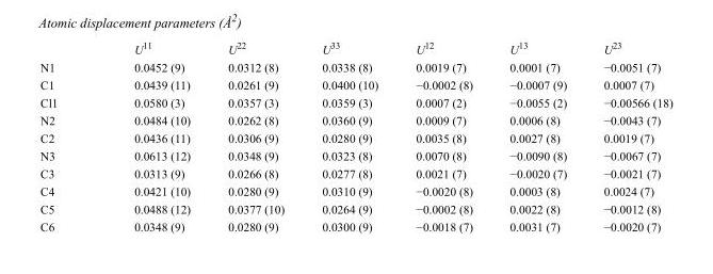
<table><thead><tr><td></td><td>U<sup>11</sup></td><td>U<sup>22</sup></td><td>U<sup>33</sup></td><td>U<sup>12</sup></td><td>U<sup>13</sup></td><td>U<sup>23</sup></td></tr></thead><tbody><tr><td>N1</td><td>0.0452 (9)</td><td>0.0312 (8)</td><td>0.0338 (8)</td><td>0.0019 (7)</td><td>0.0001 (7)</td><td>−0.0051 (7)</td></tr><tr><td>C1</td><td>0.0439 (11)</td><td>0.0261 (9)</td><td>0.0400 (10)</td><td>−0.0002 (8)</td><td>−0.0007 (9)</td><td>0.0007 (7)</td></tr><tr><td>Cl1</td><td>0.0580 (3)</td><td>0.0357 (3)</td><td>0.0359 (3)</td><td>0.0007 (2)</td><td>−0.0055 (2)</td><td>−0.00566 (18)</td></tr><tr><td>N2</td><td>0.0484 (10)</td><td>0.0262 (8)</td><td>0.0360 (9)</td><td>0.0009 (7)</td><td>0.0006 (8)</td><td>−0.0043 (7)</td></tr><tr><td>C2</td><td>0.0436 (11)</td><td>0.0306 (9)</td><td>0.0280 (9)</td><td>0.0035 (8)</td><td>0.0027 (8)</td><td>0.0019 (7)</td></tr><tr><td>N3</td><td>0.0613 (12)</td><td>0.0348 (9)</td><td>0.0323 (8)</td><td>0.0070 (8)</td><td>−0.0090 (8)</td><td>−0.0067 (7)</td></tr><tr><td>C3</td><td>0.0313 (9)</td><td>0.0266 (8)</td><td>0.0277 (8)</td><td>0.0021 (7)</td><td>−0.0020 (7)</td><td>−0.0021 (7)</td></tr><tr><td>C4</td><td>0.0421 (10)</td><td>0.0280 (9)</td><td>0.0310 (9)</td><td>−0.0020 (8)</td><td>0.0003 (8)</td><td>0.0024 (7)</td></tr><tr><td>C5</td><td>0.0488 (12)</td><td>0.0377 (10)</td><td>0.0264 (9)</td><td>−0.0002 (8)</td><td>0.0022 (8)</td><td>−0.0012 (8)</td></tr><tr><td>C6</td><td>0.0348 (9)</td><td>0.0280 (9)</td><td>0.0300 (9)</td><td>−0.0018 (7)</td><td>0.0031 (7)</td><td>−0.0020 (7)</td></tr></tbody></table>